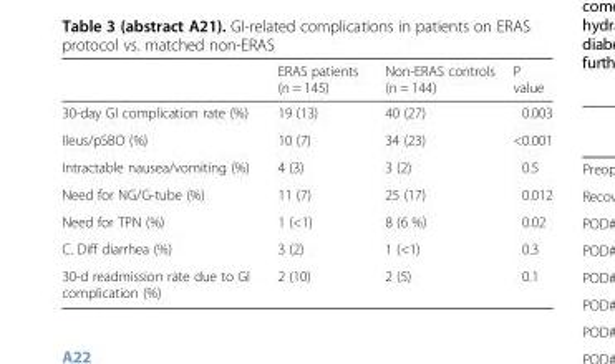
<table><thead><tr><td></td><td>ERAS patients (n = 145)</td><td>Non-ERAS controls (n = 144)</td><td>P value</td></tr></thead><tbody><tr><td>30-day GI complication rate (%)</td><td>19 (13)</td><td>40 (27)</td><td>0.003</td></tr><tr><td>Ileus/pSBO (%)</td><td>10 (7)</td><td>34 (23)</td><td>&lt;0.001</td></tr><tr><td>Intractable nausea/vomiting (%)</td><td>4 (3)</td><td>3 (2)</td><td>0.5</td></tr><tr><td>Need for NG/G-tube (%)</td><td>11 (7)</td><td>25 (17)</td><td>0.012</td></tr><tr><td>Need for TPN (%)</td><td>1 (&lt;1)</td><td>8 (6 %)</td><td>0.02</td></tr><tr><td>C. Diff diarrhea (%)</td><td>3 (2)</td><td>1 (&lt;1)</td><td>0.3</td></tr><tr><td>30-d readmission rate due to GI complication (%)</td><td>2 (10)</td><td>2 (5)</td><td>0.1</td></tr></tbody></table>